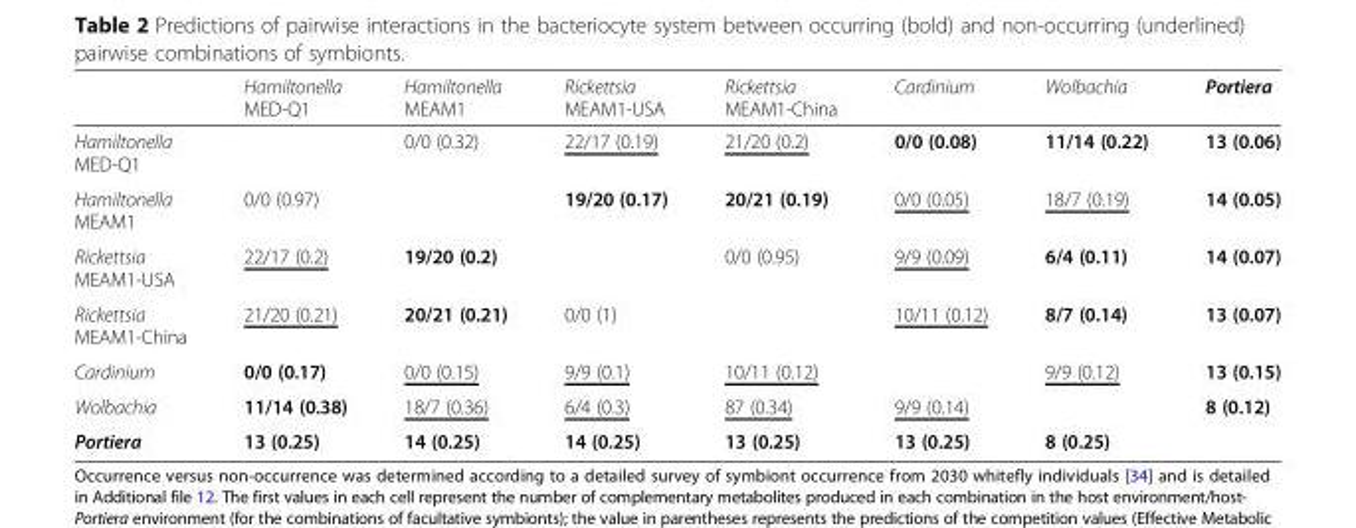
<table><thead><tr><td></td><td>Hamiltonella MED-Q1</td><td>Hamiltonella MEAM1</td><td>Rickettsia MEAM1-USA</td><td>Rickettsia MEAM1-China</td><td>Cardinium</td><td>Wolbachia</td><td>Portiera</td></tr></thead><tbody><tr><td>Hamiltonella MED-Q1</td><td></td><td>0/0 (0.32)</td><td>22/17 (0.19)</td><td>21/20 (0.2)</td><td>0/0 (0.08)</td><td>11/14 (0.22)</td><td>13 (0.06)</td></tr><tr><td>Hamiltonella MEAM1</td><td>0/0 (0.97)</td><td></td><td>19/20 (0.17)</td><td>20/21 (0.19)</td><td>0/0 (0.05)</td><td>18/7 (0.19)</td><td>14 (0.05)</td></tr><tr><td>Rickettsia MEAM1-USA</td><td>22/17 (0.2)</td><td>19/20 (0.2)</td><td></td><td>0/0 (0.95)</td><td>9/9 (0.09)</td><td>6/4 (0.11)</td><td>14 (0.07)</td></tr><tr><td>Rickettsia MEAM1-China</td><td>21/20 (0.21)</td><td>20/21 (0.21)</td><td>0/0 (1)</td><td></td><td>10/11 (0.12)</td><td>8/7 (0.14)</td><td>13 (0.07)</td></tr><tr><td>Cardinium</td><td>0/0 (0.17)</td><td>0/0 (0.15)</td><td>9/9 (0.1)</td><td>10/11 (0.12)</td><td></td><td>9/9 (0.12)</td><td>13 (0.15)</td></tr><tr><td>Wolbachia</td><td>11/14 (0.38)</td><td>18/7 (0.36)</td><td>6/4 (0.3)</td><td>87 (0.34)</td><td>9/9 (0.14)</td><td></td><td>8 (0.12)</td></tr><tr><td>Portiera</td><td>13 (0.25)</td><td>14 (0.25)</td><td>14 (0.25)</td><td>13 (0.25)</td><td>13 (0.25)</td><td>8 (0.25)</td><td></td></tr></tbody></table>